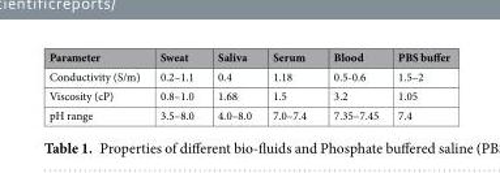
<table><thead><tr><td>Parameter</td><td>Sweat</td><td>Saliva</td><td>Serum</td><td>Blood</td><td>PBS buffer</td></tr></thead><tbody><tr><td>Conductivity (S/m)</td><td>0.2–1.1</td><td>0.4</td><td>1.18</td><td>0.5-0.6</td><td>1.5–2</td></tr><tr><td>Viscosity (cP)</td><td>0.8–1.0</td><td>1.68</td><td>1.5</td><td>3.2</td><td>1.05</td></tr><tr><td>pH range</td><td>3.5–8.0</td><td>4.0–8.0</td><td>7.0–7.4</td><td>7.35–7.45</td><td>7.4</td></tr></tbody></table>